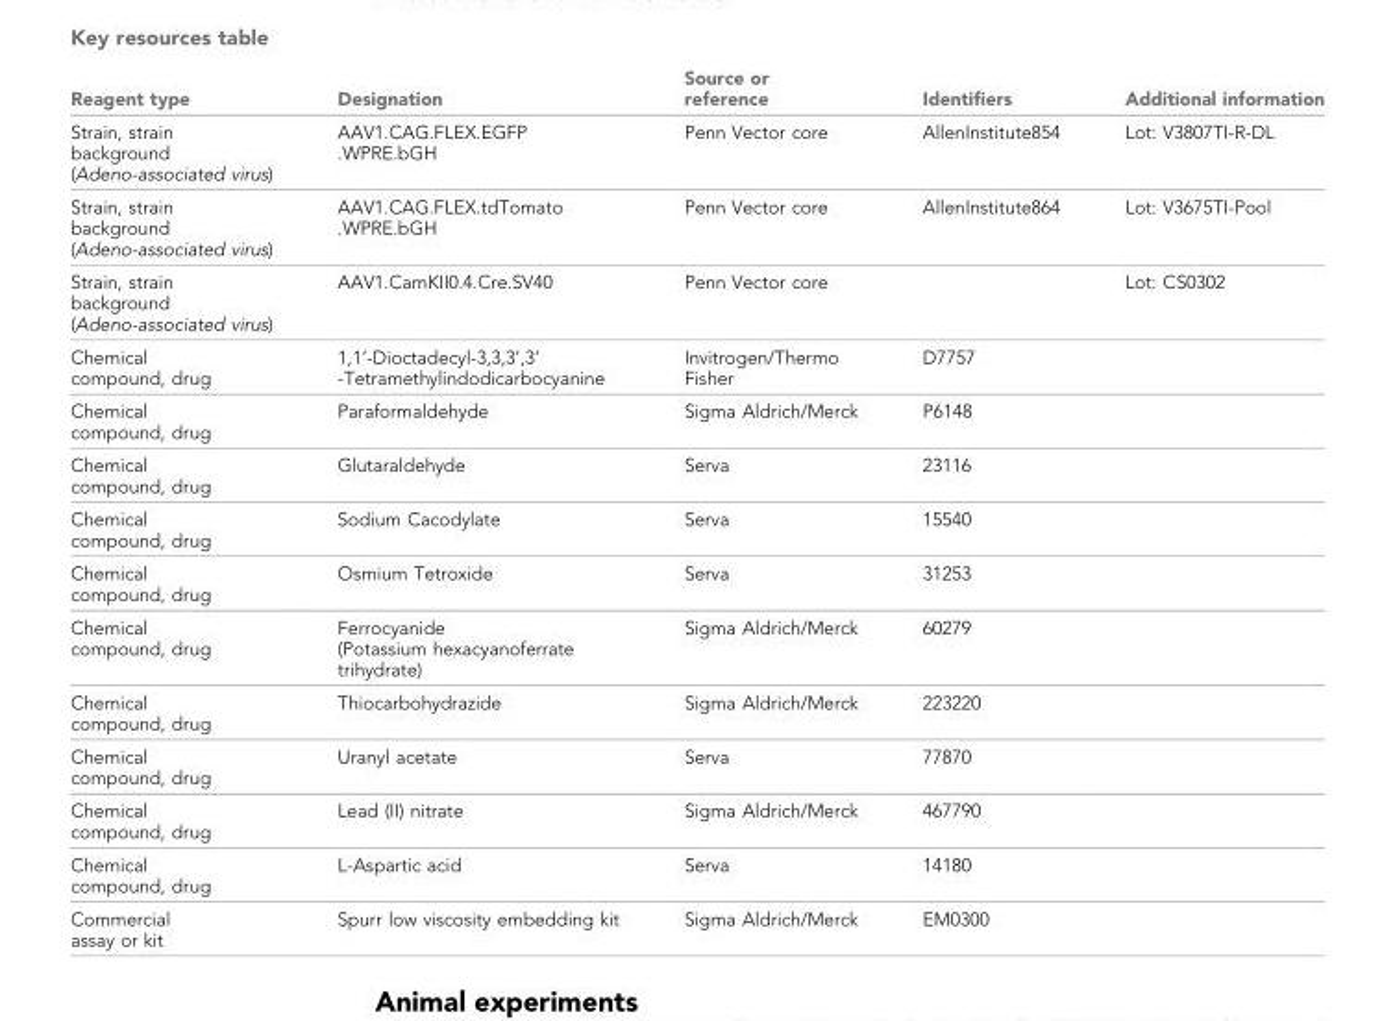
<table><thead><tr><td>Reagent type</td><td>Designation</td><td>Source or reference</td><td>Identifiers</td><td>Additional information</td></tr></thead><tbody><tr><td>Strain, strain background (Adeno-associated virus)</td><td>AAV1.CAG.FLEX.EGFP .WPRE.bGH</td><td>Penn Vector core</td><td>AllenInstitute854</td><td>Lot: V3807TI-R-DL</td></tr><tr><td>Strain, strain background (Adeno-associated virus)</td><td>AAV1.CAG.FLEX.tdTomato .WPRE.bGH</td><td>Penn Vector core</td><td>AllenInstitute864</td><td>Lot: V3675TI-Pool</td></tr><tr><td>Strain, strain background (Adeno-associated virus)</td><td>AAV1.CamKII0.4.Cre.SV40</td><td>Penn Vector core</td><td></td><td>Lot: CS0302</td></tr><tr><td>Chemical compound, drug</td><td>1,1’-Dioctadecyl-3,3,3’,3’ -Tetramethylindodicarbocyanine</td><td>Invitrogen/Thermo Fisher</td><td>D7757</td><td></td></tr><tr><td>Chemical compound, drug</td><td>Paraformaldehyde</td><td>Sigma Aldrich/Merck</td><td>P6148</td><td></td></tr><tr><td>Chemical compound, drug</td><td>Glutaraldehyde</td><td>Serva</td><td>23116</td><td></td></tr><tr><td>Chemical compound, drug</td><td>Sodium Cacodylate</td><td>Serva</td><td>15540</td><td></td></tr><tr><td>Chemical compound, drug</td><td>Osmium Tetroxide</td><td>Serva</td><td>31253</td><td></td></tr><tr><td>Chemical compound, drug</td><td>Ferrocyanide (Potassium hexacyanoferrate trihydrate)</td><td>Sigma Aldrich/Merck</td><td>60279</td><td></td></tr><tr><td>Chemical compound, drug</td><td>Thiocarbohydrazide</td><td>Sigma Aldrich/Merck</td><td>223220</td><td></td></tr><tr><td>Chemical compound, drug</td><td>Uranyl acetate</td><td>Serva</td><td>77870</td><td></td></tr><tr><td>Chemical compound, drug</td><td>Lead (II) nitrate</td><td>Sigma Aldrich/Merck</td><td>467790</td><td></td></tr><tr><td>Chemical compound, drug</td><td>L-Aspartic acid</td><td>Serva</td><td>14180</td><td></td></tr><tr><td>Commercial assay or kit</td><td>Spurr low viscosity embedding kit</td><td>Sigma Aldrich/Merck</td><td>EM0300</td><td></td></tr></tbody></table>